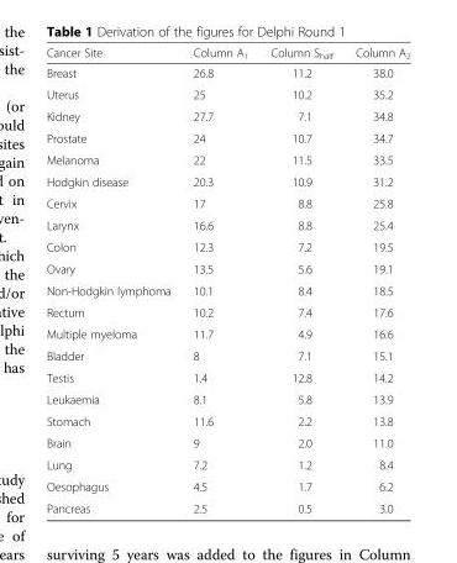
<table><thead><tr><td>Cancer Site</td><td>Column A<sub>1</sub></td><td>Column S<sub>half</sub></td><td>Column A<sub>2</sub></td></tr></thead><tbody><tr><td>Breast</td><td>26.8</td><td>11.2</td><td>38.0</td></tr><tr><td>Uterus</td><td>25</td><td>10.2</td><td>35.2</td></tr><tr><td>Kidney</td><td>27.7</td><td>7.1</td><td>34.8</td></tr><tr><td>Prostate</td><td>24</td><td>10.7</td><td>34.7</td></tr><tr><td>Melanoma</td><td>22</td><td>11.5</td><td>33.5</td></tr><tr><td>Hodgkin disease</td><td>20.3</td><td>10.9</td><td>31.2</td></tr><tr><td>Cervix</td><td>17</td><td>8.8</td><td>25.8</td></tr><tr><td>Larynx</td><td>16.6</td><td>8.8</td><td>25.4</td></tr><tr><td>Colon</td><td>12.3</td><td>7.2</td><td>19.5</td></tr><tr><td>Ovary</td><td>13.5</td><td>5.6</td><td>19.1</td></tr><tr><td>Non-Hodgkin lymphoma</td><td>10.1</td><td>8.4</td><td>18.5</td></tr><tr><td>Rectum</td><td>10.2</td><td>7.4</td><td>17.6</td></tr><tr><td>Multiple myeloma</td><td>11.7</td><td>4.9</td><td>16.6</td></tr><tr><td>Bladder</td><td>8</td><td>7.1</td><td>15.1</td></tr><tr><td>Testis</td><td>1.4</td><td>12.8</td><td>14.2</td></tr><tr><td>Leukaemia</td><td>8.1</td><td>5.8</td><td>13.9</td></tr><tr><td>Stomach</td><td>11.6</td><td>2.2</td><td>13.8</td></tr><tr><td>Brain</td><td>9</td><td>2.0</td><td>11.0</td></tr><tr><td>Lung</td><td>7.2</td><td>1.2</td><td>8.4</td></tr><tr><td>Oesophagus</td><td>4.5</td><td>1.7</td><td>6.2</td></tr><tr><td>Pancreas</td><td>2.5</td><td>0.5</td><td>3.0</td></tr></tbody></table>